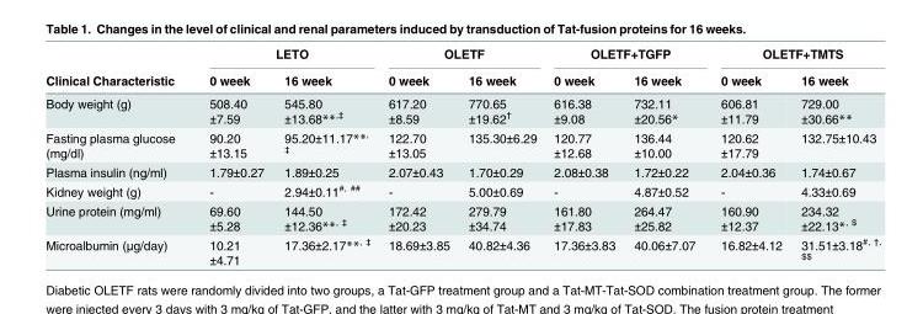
<table><thead><tr><td rowspan="2">Clinical Characteristic</td><td colspan="2">LETO</td><td colspan="2">OLETF</td><td colspan="2">OLETF+TGFP</td><td colspan="2">OLETF+TMTS</td></tr><tr><td>0 week</td><td>16 week</td><td>0 week</td><td>16 week</td><td>0 week</td><td>16 week</td><td>0 week</td><td>16 week</td></tr></thead><tbody><tr><td>Body weight (g)</td><td>508.40 ±7.59</td><td>545.80 ±13.68**<sup>,‡</sup></td><td>617.20 ±8.59</td><td>770.65 ±19.62<sup>†</sup></td><td>616.38 ±9.08</td><td>732.11 ±20.56*</td><td>606.81 ±11.79</td><td>729.00 ±30.66**</td></tr><tr><td>Fasting plasma glucose (mg/dl)</td><td>90.20 ±13.15</td><td>95.20±11.17**<sup>, ‡</sup></td><td>122.70 ±13.05</td><td>135.30±6.29</td><td>120.77 ±12.68</td><td>136.44 ±10.00</td><td>120.62 ±17.79</td><td>132.75±10.43</td></tr><tr><td>Plasma insulin (ng/ml)</td><td>1.79±0.27</td><td>1.89±0.25</td><td>2.07±0.43</td><td>1.70±0.29</td><td>2.08±0.38</td><td>1.72±0.22</td><td>2.04±0.36</td><td>1.74±0.67</td></tr><tr><td>Kidney weight (g)</td><td>-</td><td>2.94±0.11<sup>#, ##</sup></td><td>-</td><td>5.00±0.69</td><td>-</td><td>4.87±0.52</td><td>-</td><td>4.33±0.69</td></tr><tr><td>Urine protein (mg/ml)</td><td>69.60 ±5.28</td><td>144.50 ±12.36**<sup>, ‡</sup></td><td>172.42 ±20.23</td><td>279.79 ±34.74</td><td>161.80 ±17.83</td><td>264.47 ±25.82</td><td>160.90 ±12.37</td><td>234.32 ±22.13*<sup>, $</sup></td></tr><tr><td>Microalbumin (μg/day)</td><td>10.21 ±4.71</td><td>17.36±2.17**<sup>, ‡</sup></td><td>18.69±3.85</td><td>40.82±4.36</td><td>17.36±3.83</td><td>40.06±7.07</td><td>16.82±4.12</td><td>31.51±3.18#, $$</td></tr></tbody></table>